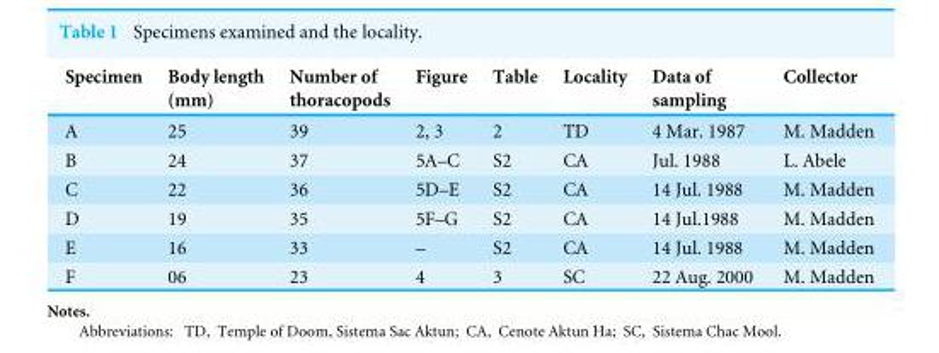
<table><thead><tr><td>Specimen</td><td>Body length (mm)</td><td>Number of thoracopods</td><td>Figure</td><td>Table</td><td>Locality</td><td>Data of sampling</td><td>Collector</td></tr></thead><tbody><tr><td>A</td><td>25</td><td>39</td><td>2, 3</td><td>2</td><td>TD</td><td>4 Mar. 1987</td><td>M. Madden</td></tr><tr><td>B</td><td>24</td><td>37</td><td>5A–C</td><td>S2</td><td>CA</td><td>Jul. 1988</td><td>L. Abele</td></tr><tr><td>C</td><td>22</td><td>36</td><td>5D–E</td><td>S2</td><td>CA</td><td>14 Jul. 1988</td><td>M. Madden</td></tr><tr><td>D</td><td>19</td><td>35</td><td>5F–G</td><td>S2</td><td>CA</td><td>14 Jul.1988</td><td>M. Madden</td></tr><tr><td>E</td><td>16</td><td>33</td><td>–</td><td>S2</td><td>CA</td><td>14 Jul. 1988</td><td>M. Madden</td></tr><tr><td>F</td><td>06</td><td>23</td><td>4</td><td>3</td><td>SC</td><td>22 Aug. 2000</td><td>M. Madden</td></tr></tbody></table>